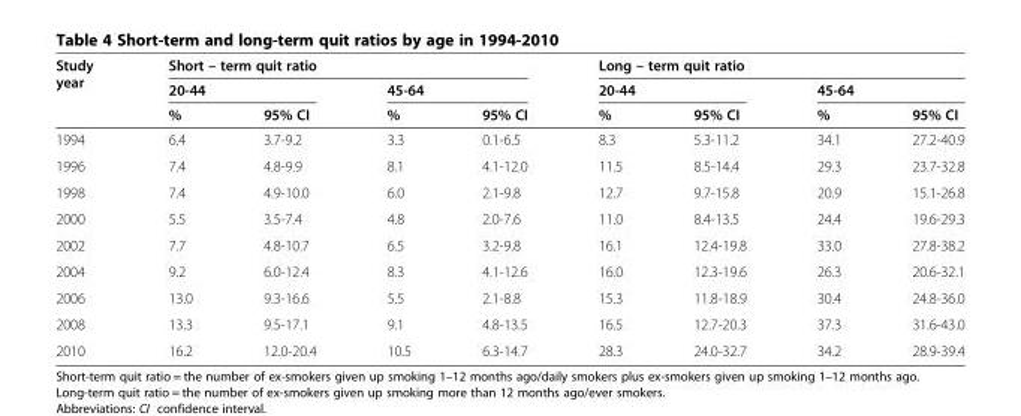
<table><thead><tr><td rowspan="3">Study year</td><td colspan="4">Short – term quit ratio</td><td colspan="4">Long – term quit ratio</td></tr><tr><td colspan="2">20-44</td><td colspan="2">45-64</td><td colspan="2">20-44</td><td colspan="2">45-64</td></tr><tr><td>%</td><td>95% CI</td><td>%</td><td>95% CI</td><td>%</td><td>95% CI</td><td>%</td><td>95% CI</td></tr></thead><tbody><tr><td>1994</td><td>6.4</td><td>3.7-9.2</td><td>3.3</td><td>0.1-6.5</td><td>8.3</td><td>5.3-11.2</td><td>34.1</td><td>27.2-40.9</td></tr><tr><td>1996</td><td>7.4</td><td>4.8-9.9</td><td>8.1</td><td>4.1-12.0</td><td>11.5</td><td>8.5-14.4</td><td>29.3</td><td>23.7-32.8</td></tr><tr><td>1998</td><td>7.4</td><td>4.9-10.0</td><td>6.0</td><td>2.1-9.8</td><td>12.7</td><td>9.7-15.8</td><td>20.9</td><td>15.1-26.8</td></tr><tr><td>2000</td><td>5.5</td><td>3.5-7.4</td><td>4.8</td><td>2.0-7.6</td><td>11.0</td><td>8.4-13.5</td><td>24.4</td><td>19.6-29.3</td></tr><tr><td>2002</td><td>7.7</td><td>4.8-10.7</td><td>6.5</td><td>3.2-9.8</td><td>16.1</td><td>12.4-19.8</td><td>33.0</td><td>27.8-38.2</td></tr><tr><td>2004</td><td>9.2</td><td>6.0-12.4</td><td>8.3</td><td>4.1-12.6</td><td>16.0</td><td>12.3-19.6</td><td>26.3</td><td>20.6-32.1</td></tr><tr><td>2006</td><td>13.0</td><td>9.3-16.6</td><td>5.5</td><td>2.1-8.8</td><td>15.3</td><td>11.8-18.9</td><td>30.4</td><td>24.8-36.0</td></tr><tr><td>2008</td><td>13.3</td><td>9.5-17.1</td><td>9.1</td><td>4.8-13.5</td><td>16.5</td><td>12.7-20.3</td><td>37.3</td><td>31.6-43.0</td></tr><tr><td>2010</td><td>16.2</td><td>12.0-20.4</td><td>10.5</td><td>6.3-14.7</td><td>28.3</td><td>24.0-32.7</td><td>34.2</td><td>28.9-39.4</td></tr></tbody></table>